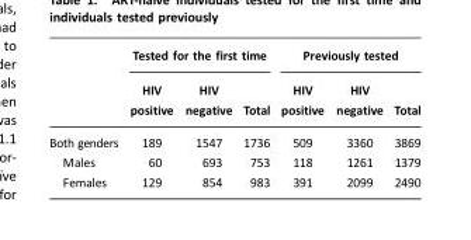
<table><thead><tr><td rowspan="2"></td><td colspan="3">Tested for the first time</td><td colspan="3">Previously tested</td></tr><tr><td>HIV positive</td><td>HIV negative</td><td>Total</td><td>HIV positive</td><td>HIV negative</td><td>Total</td></tr></thead><tbody><tr><td>Both genders</td><td>189</td><td>1547</td><td>1736</td><td>509</td><td>3360</td><td>3869</td></tr><tr><td>Males</td><td>60</td><td>693</td><td>753</td><td>118</td><td>1261</td><td>1379</td></tr><tr><td>Females</td><td>129</td><td>854</td><td>983</td><td>391</td><td>2099</td><td>2490</td></tr></tbody></table>